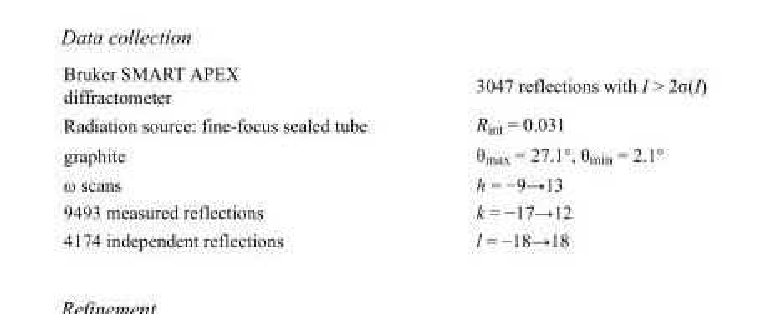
<table><tbody><tr><td>Bruker SMART APEX diffractometer</td><td>3047 reflections with I &gt; 2σ(I)</td></tr><tr><td>Radiation source: fine-focus sealed tube</td><td>R<sub>int</sub> = 0.031</td></tr><tr><td>graphite</td><td>θ<sub>max</sub> = 27.1°, θ<sub>min</sub> = 2.1°</td></tr><tr><td>ω scans</td><td>h = −9→13</td></tr><tr><td>9493 measured reflections</td><td>k = −17→12</td></tr><tr><td>4174 independent reflections</td><td>l = −18→18</td></tr></tbody></table>